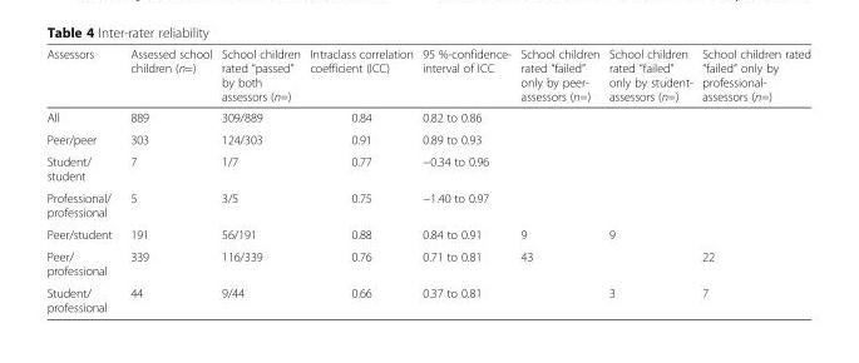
<table><thead><tr><td>Assessors</td><td>Assessed school children (n=)</td><td>School children rated “passed” by both assessors (n=)</td><td>Intraclass correlation coefficient (ICC)</td><td>95 %-confidence- interval of ICC</td><td>School children rated “failed” only by peer- assessors (n=)</td><td>School children rated “failed” only by student- assessors (n=)</td><td>School children rated “failed” only by professional- assessors (n=)</td></tr></thead><tbody><tr><td>All</td><td>889</td><td>309/889</td><td>0.84</td><td>0.82 to 0.86</td><td></td><td></td><td></td></tr><tr><td>Peer/peer</td><td>303</td><td>124/303</td><td>0.91</td><td>0.89 to 0.93</td><td></td><td></td><td></td></tr><tr><td>Student/ student</td><td>7</td><td>1/7</td><td>0.77</td><td>−0.34 to 0.96</td><td></td><td></td><td></td></tr><tr><td>Professional/ professional</td><td>5</td><td>3/5</td><td>0.75</td><td>−1.40 to 0.97</td><td></td><td></td><td></td></tr><tr><td>Peer/student</td><td>191</td><td>56/191</td><td>0.88</td><td>0.84 to 0.91</td><td>9</td><td>9</td><td></td></tr><tr><td>Peer/ professional</td><td>339</td><td>116/339</td><td>0.76</td><td>0.71 to 0.81</td><td>43</td><td></td><td>22</td></tr><tr><td>Student/ professional</td><td>44</td><td>9/44</td><td>0.66</td><td>0.37 to 0.81</td><td></td><td>3</td><td>7</td></tr></tbody></table>